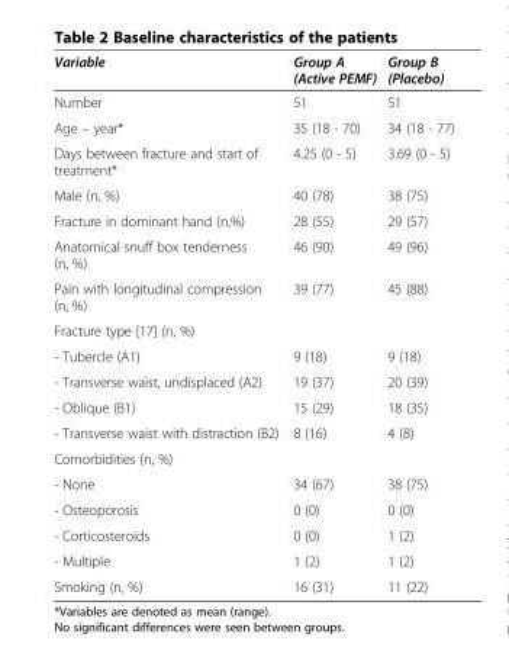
<table><thead><tr><td>Variable</td><td>Group A (Active PEMF)</td><td>Group B (Placebo)</td></tr></thead><tbody><tr><td>Number</td><td>51</td><td>51</td></tr><tr><td>Age – year*</td><td>35 (18 - 70)</td><td>34 (18 - 77)</td></tr><tr><td>Days between fracture and start of treatment*</td><td>4.25 (0 - 5)</td><td>3.69 (0 - 5)</td></tr><tr><td>Male (n, %)</td><td>40 (78)</td><td>38 (75)</td></tr><tr><td>Fracture in dominant hand (n,%)</td><td>28 (55)</td><td>29 (57)</td></tr><tr><td>Anatomical snuff box tenderness (n, %)</td><td>46 (90)</td><td>49 (96)</td></tr><tr><td>Pain with longitudinal compression (n, %)</td><td>39 (77)</td><td>45 (88)</td></tr><tr><td colspan="3">Fracture type [17] (n, %)</td></tr><tr><td>- Tubercle (A1)</td><td>9 (18)</td><td>9 (18)</td></tr><tr><td>- Transverse waist, undisplaced (A2)</td><td>19 (37)</td><td>20 (39)</td></tr><tr><td>- Oblique (B1)</td><td>15 (29)</td><td>18 (35)</td></tr><tr><td>- Transverse waist with distraction (B2)</td><td>8 (16)</td><td>4 (8)</td></tr><tr><td colspan="3">Comorbidities (n, %)</td></tr><tr><td>- None</td><td>34 (67)</td><td>38 (75)</td></tr><tr><td>- Osteoporosis</td><td>0 (0)</td><td>0 (0)</td></tr><tr><td>- Corticosteroids</td><td>0 (0)</td><td>1 (2)</td></tr><tr><td>- Multiple</td><td>1 (2)</td><td>1 (2)</td></tr><tr><td>Smoking (n, %)</td><td>16 (31)</td><td>11 (22)</td></tr></tbody></table>